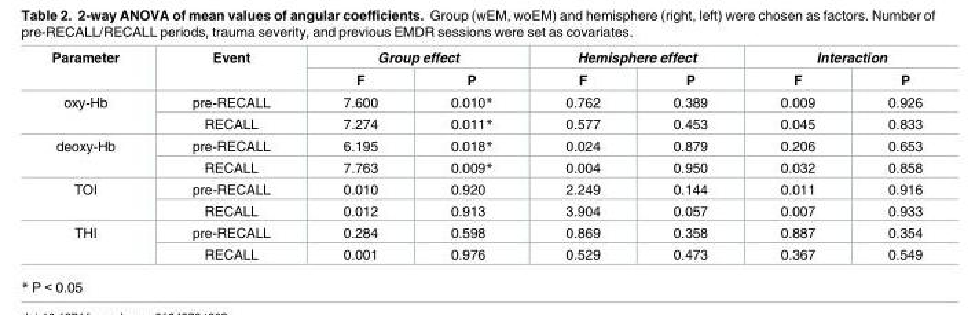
<table><thead><tr><td rowspan="2">Parameter</td><td rowspan="2">Event</td><td colspan="2">Group effect</td><td colspan="2">Hemisphere effect</td><td colspan="2">Interaction</td></tr><tr><td>F</td><td>P</td><td>F</td><td>P</td><td>F</td><td>P</td></tr></thead><tbody><tr><td rowspan="2">oxy-Hb</td><td>pre-RECALL</td><td>7.600</td><td>0.010*</td><td>0.762</td><td>0.389</td><td>0.009</td><td>0.926</td></tr><tr><td>RECALL</td><td>7.274</td><td>0.011*</td><td>0.577</td><td>0.453</td><td>0.045</td><td>0.833</td></tr><tr><td rowspan="2">deoxy-Hb</td><td>pre-RECALL</td><td>6.195</td><td>0.018*</td><td>0.024</td><td>0.879</td><td>0.206</td><td>0.653</td></tr><tr><td>RECALL</td><td>7.763</td><td>0.009*</td><td>0.004</td><td>0.950</td><td>0.032</td><td>0.858</td></tr><tr><td rowspan="2">TOI</td><td>pre-RECALL</td><td>0.010</td><td>0.920</td><td>2.249</td><td>0.144</td><td>0.011</td><td>0.916</td></tr><tr><td>RECALL</td><td>0.012</td><td>0.913</td><td>3.904</td><td>0.057</td><td>0.007</td><td>0.933</td></tr><tr><td rowspan="2">THI</td><td>pre-RECALL</td><td>0.284</td><td>0.598</td><td>0.869</td><td>0.358</td><td>0.887</td><td>0.354</td></tr><tr><td>RECALL</td><td>0.001</td><td>0.976</td><td>0.529</td><td>0.473</td><td>0.367</td><td>0.549</td></tr></tbody></table>